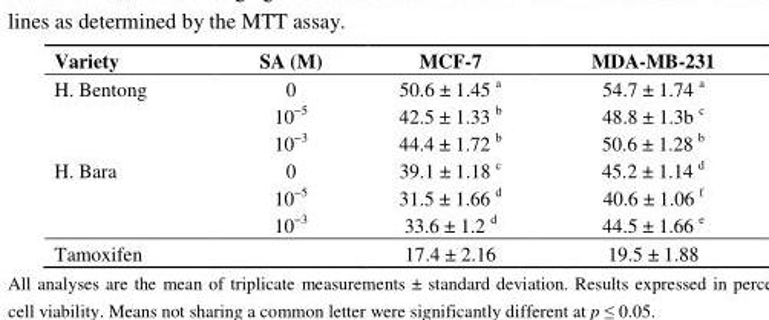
<table><thead><tr><td>Variety</td><td>SA (M)</td><td>MCF-7</td><td>MDA-MB-231</td></tr></thead><tbody><tr><td rowspan="3">H. Bentong</td><td>0</td><td>50.6 ± 1.45 <sup>a</sup></td><td>54.7 ± 1.74 <sup>a</sup></td></tr><tr><td>10<sup>−5</sup></td><td>42.5 ± 1.33 <sup>b</sup></td><td>48.8 ± 1.3b <sup>c</sup></td></tr><tr><td>10<sup>−3</sup></td><td>44.4 ± 1.72 <sup>b</sup></td><td>50.6 ± 1.28 <sup>b</sup></td></tr><tr><td rowspan="3">H. Bara</td><td>0</td><td>39.1 ± 1.18 <sup>c</sup></td><td>45.2 ± 1.14 <sup>d</sup></td></tr><tr><td>10<sup>−5</sup></td><td>31.5 ± 1.66 <sup>d</sup></td><td>40.6 ± 1.06 <sup>f</sup></td></tr><tr><td>10<sup>−3</sup></td><td>33.6 ± 1.2 <sup>d</sup></td><td>44.5 ± 1.66 <sup>e</sup></td></tr><tr><td>Tamoxifen</td><td></td><td>17.4 ± 2.16</td><td>19.5 ± 1.88</td></tr></tbody></table>